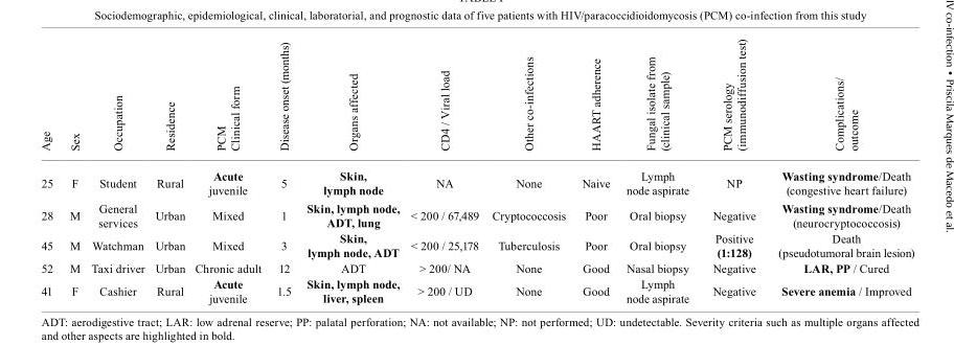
<table><thead><tr><td>Age</td><td>Sex</td><td>Occupation</td><td>Residence</td><td>PCM Clinical form</td><td>Disease onset (months)</td><td>Organs affected</td><td>CD4 / Viral load</td><td>Other co-infections</td><td>HAART adherence</td><td>Fungal isolate from (clinical sample)</td><td>PCM serology (immunodiffusion test)</td><td>Complications/ outcome</td></tr></thead><tbody><tr><td>25</td><td>F</td><td>Student</td><td>Rural</td><td>Acute juvenile</td><td>5</td><td>Skin, lymph node</td><td>NA</td><td>None</td><td>Naive</td><td>Lymph node aspirate</td><td>NP</td><td>Wasting syndrome/Death (congestive heart failure)</td></tr><tr><td>28</td><td>M</td><td>General services</td><td>Urban</td><td>Mixed</td><td>1</td><td>Skin, lymph node, ADT, lung</td><td>&lt; 200 / 67,489</td><td>Cryptococcosis</td><td>Poor</td><td>Oral biopsy</td><td>Negative</td><td>Wasting syndrome/Death (neurocryptococcosis)</td></tr><tr><td>45</td><td>M</td><td>Watchman</td><td>Urban</td><td>Mixed</td><td>3</td><td>Skin, lymph node, ADT</td><td>&lt; 200 / 25,178</td><td>Tuberculosis</td><td>Poor</td><td>Oral biopsy</td><td>Positive (1:128)</td><td>Death (pseudotumoral brain lesion)</td></tr><tr><td>52</td><td>M</td><td>Taxi driver</td><td>Urban</td><td>Chronic adult</td><td>12</td><td>ADT</td><td>&gt; 200/ NA</td><td>None</td><td>Good</td><td>Nasal biopsy</td><td>Negative</td><td>LAR, PP / Cured</td></tr><tr><td>41</td><td>F</td><td>Cashier</td><td>Rural</td><td>Acute juvenile</td><td>1.5</td><td>Skin, lymph node, liver, spleen</td><td>&gt; 200 / UD</td><td>None</td><td>Good</td><td>Lymph node aspirate</td><td>Negative</td><td>Severe anemia / Improved</td></tr></tbody></table>